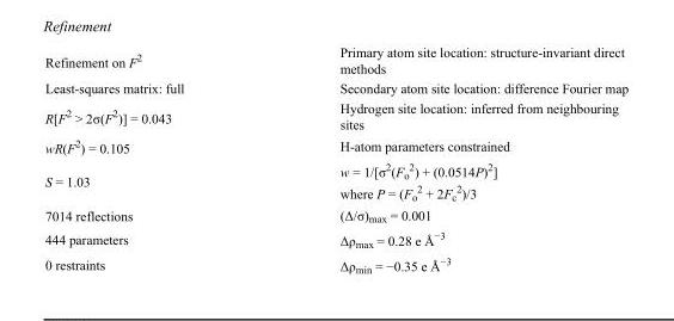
<table><tbody><tr><td>Refinement on F<sup>2</sup></td><td>Primary atom site location: structure-invariant direct methods</td></tr><tr><td>Least-squares matrix: full</td><td>Secondary atom site location: difference Fourier map</td></tr><tr><td>R[F<sup>2</sup> &gt; 2σ(F<sup>2</sup>)] = 0.043</td><td>Hydrogen site location: inferred from neighbouring sites</td></tr><tr><td>wR(F<sup>2</sup>) = 0.105</td><td>H-atom parameters constrained</td></tr><tr><td>S = 1.03</td><td>w = 1/[σ<sup>2</sup>(F<sub>o</sub> <sup>2</sup>) + (0.0514P)<sup>2</sup>] where P = (F<sub>o</sub> <sup>2</sup> + 2F<sub>c</sub> <sup>2</sup>)/3</td></tr><tr><td>7014 reflections</td><td>(Δ/σ)<sub>max</sub> = 0.001</td></tr><tr><td>444 parameters</td><td>Δρ<sub>max</sub> = 0.28 e Å<sup>−3</sup></td></tr><tr><td>0 restraints</td><td>Δρ<sub>min</sub> = −0.35 e Å<sup>−3</sup></td></tr></tbody></table>